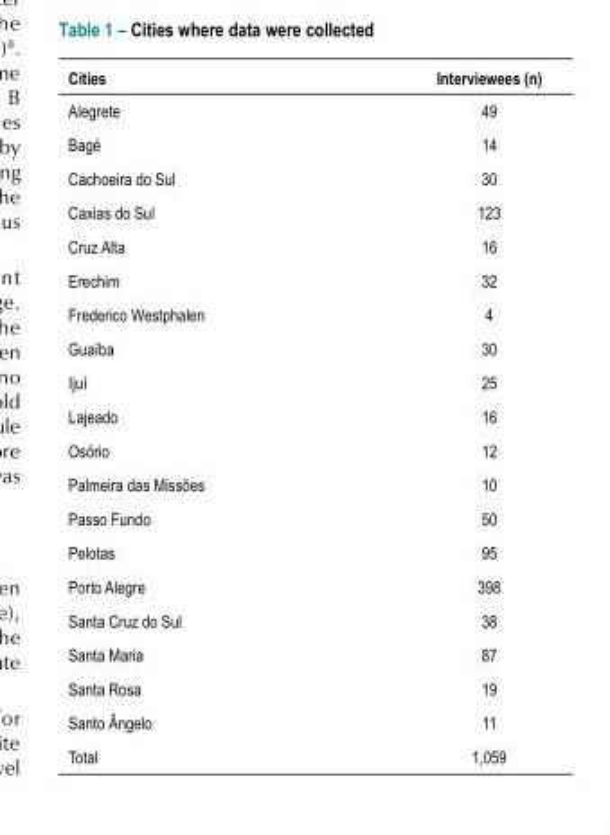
<table><thead><tr><td>Cities</td><td>Interviewees (n)</td></tr></thead><tbody><tr><td>Alegrete</td><td>49</td></tr><tr><td>Bagé</td><td>14</td></tr><tr><td>Cachoeira do Sul</td><td>30</td></tr><tr><td>Caxias do Sul</td><td>123</td></tr><tr><td>Cruz Alta</td><td>16</td></tr><tr><td>Erechim</td><td>32</td></tr><tr><td>Frederico Westphalen</td><td>4</td></tr><tr><td>Guaíba</td><td>30</td></tr><tr><td>Ijuí</td><td>25</td></tr><tr><td>Lajeado</td><td>16</td></tr><tr><td>Osório</td><td>12</td></tr><tr><td>Palmeira das Missões</td><td>10</td></tr><tr><td>Passo Fundo</td><td>50</td></tr><tr><td>Pelotas</td><td>95</td></tr><tr><td>Porto Alegre</td><td>398</td></tr><tr><td>Santa Cruz do Sul</td><td>38</td></tr><tr><td>Santa Maria</td><td>87</td></tr><tr><td>Santa Rosa</td><td>19</td></tr><tr><td>Santo Ângelo</td><td>11</td></tr><tr><td>Total</td><td>1,059</td></tr></tbody></table>